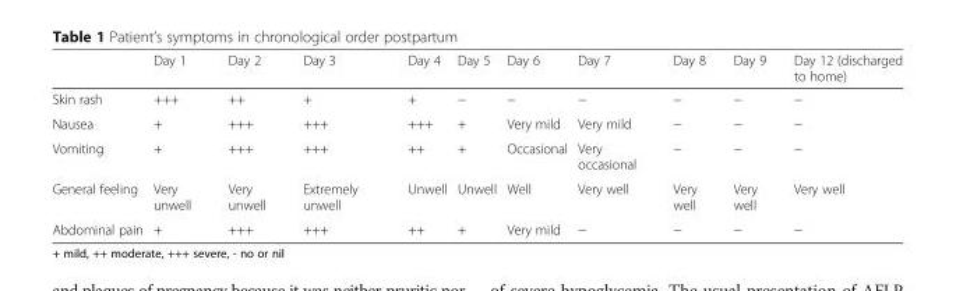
<table><thead><tr><td></td><td>Day 1</td><td>Day 2</td><td>Day 3</td><td>Day 4</td><td>Day 5</td><td>Day 6</td><td>Day 7</td><td>Day 8</td><td>Day 9</td><td>Day 12 (discharged to home)</td></tr></thead><tbody><tr><td>Skin rash</td><td>+++</td><td>++</td><td>+</td><td>+</td><td>−</td><td>−</td><td>−</td><td>−</td><td>−</td><td>−</td></tr><tr><td>Nausea</td><td>+</td><td>+++</td><td>+++</td><td>+++</td><td>+</td><td>Very mild</td><td>Very mild</td><td>−</td><td>−</td><td>−</td></tr><tr><td>Vomiting</td><td>+</td><td>+++</td><td>+++</td><td>++</td><td>+</td><td>Occasional</td><td>Very occasional</td><td>−</td><td>−</td><td>−</td></tr><tr><td>General feeling</td><td>Very unwell</td><td>Very unwell</td><td>Extremely unwell</td><td>Unwell</td><td>Unwell</td><td>Well</td><td>Very well</td><td>Very well</td><td>Very well</td><td>Very well</td></tr><tr><td>Abdominal pain</td><td>+</td><td>+++</td><td>+++</td><td>++</td><td>+</td><td>Very mild</td><td>−</td><td>−</td><td>−</td><td>−</td></tr></tbody></table>